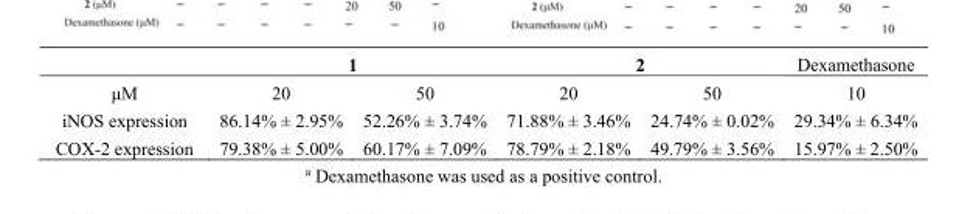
<table><thead><tr><td rowspan="2">μM</td><td colspan="2">1</td><td colspan="2">2</td><td rowspan="2">Dexamethasone 10</td></tr><tr><td>20</td><td>50</td><td>20</td><td>50</td></tr></thead><tbody><tr><td>iNOS expression</td><td>86.14% ± 2.95%</td><td>52.26% ± 3.74%</td><td>71.88% ± 3.46%</td><td>24.74% ± 0.02%</td><td>29.34% ± 6.34%</td></tr><tr><td>COX-2 expression</td><td>79.38% ± 5.00%</td><td>60.17% ± 7.09%</td><td>78.79% ± 2.18%</td><td>49.79% ± 3.56%</td><td>15.97% ± 2.50%</td></tr></tbody></table>